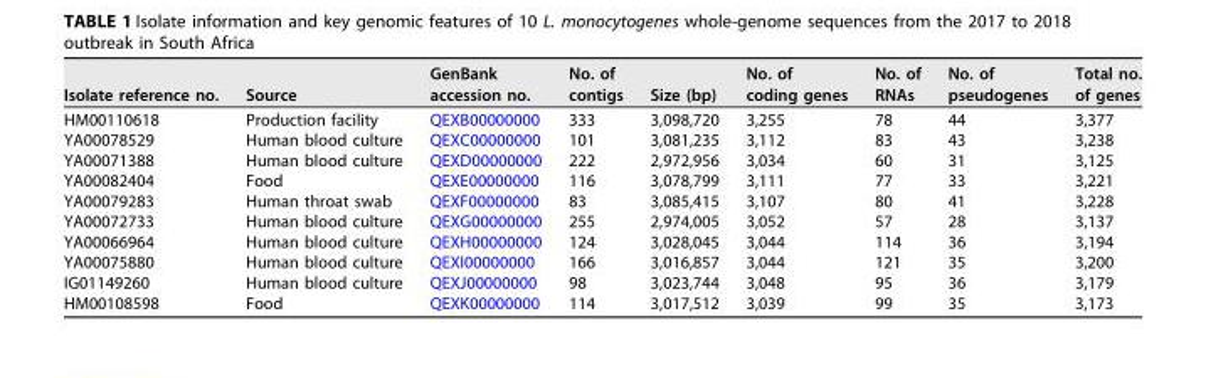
<table><thead><tr><td>Isolate reference no.</td><td>Source</td><td>GenBank accession no.</td><td>No. of contigs</td><td>Size (bp)</td><td>No. of coding genes</td><td>No. of RNAs</td><td>No. of pseudogenes</td><td>Total no. of genes</td></tr></thead><tbody><tr><td>HM00110618</td><td>Production facility</td><td>QEXB00000000</td><td>333</td><td>3,098,720</td><td>3,255</td><td>78</td><td>44</td><td>3,377</td></tr><tr><td>YA00078529</td><td>Human blood culture</td><td>QEXC00000000</td><td>101</td><td>3,081,235</td><td>3,112</td><td>83</td><td>43</td><td>3,238</td></tr><tr><td>YA00071388</td><td>Human blood culture</td><td>QEXD00000000</td><td>222</td><td>2,972,956</td><td>3,034</td><td>60</td><td>31</td><td>3,125</td></tr><tr><td>YA00082404</td><td>Food</td><td>QEXE00000000</td><td>116</td><td>3,078,799</td><td>3,111</td><td>77</td><td>33</td><td>3,221</td></tr><tr><td>YA00079283</td><td>Human throat swab</td><td>QEXF00000000</td><td>83</td><td>3,085,415</td><td>3,107</td><td>80</td><td>41</td><td>3,228</td></tr><tr><td>YA00072733</td><td>Human blood culture</td><td>QEXG00000000</td><td>255</td><td>2,974,005</td><td>3,052</td><td>57</td><td>28</td><td>3,137</td></tr><tr><td>YA00066964</td><td>Human blood culture</td><td>QEXH00000000</td><td>124</td><td>3,028,045</td><td>3,044</td><td>114</td><td>36</td><td>3,194</td></tr><tr><td>YA00075880</td><td>Human blood culture</td><td>QEXI00000000</td><td>166</td><td>3,016,857</td><td>3,044</td><td>121</td><td>35</td><td>3,200</td></tr><tr><td>IG01149260</td><td>Human blood culture</td><td>QEXJ00000000</td><td>98</td><td>3,023,744</td><td>3,048</td><td>95</td><td>36</td><td>3,179</td></tr><tr><td>HM00108598</td><td>Food</td><td>QEXK00000000</td><td>114</td><td>3,017,512</td><td>3,039</td><td>99</td><td>35</td><td>3,173</td></tr></tbody></table>